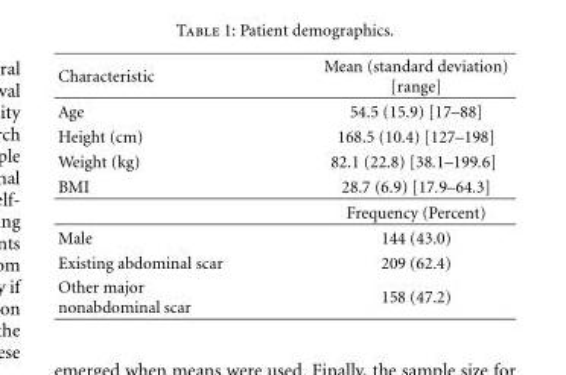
<table><thead><tr><td>Characteristic</td><td>Mean (standard deviation) [range]</td></tr></thead><tbody><tr><td>Age</td><td>54.5 (15.9) [17–88]</td></tr><tr><td>Height (cm)</td><td>168.5 (10.4) [127–198]</td></tr><tr><td>Weight (kg)</td><td>82.1 (22.8) [38.1–199.6]</td></tr><tr><td rowspan="2">BMI</td><td>28.7 (6.9) [17.9–64.3]</td></tr><tr><td>Frequency (Percent)</td></tr><tr><td>Male</td><td>144 (43.0)</td></tr><tr><td>Existing abdominal scar</td><td>209 (62.4)</td></tr><tr><td>Other major nonabdominal scar</td><td>158 (47.2)</td></tr></tbody></table>